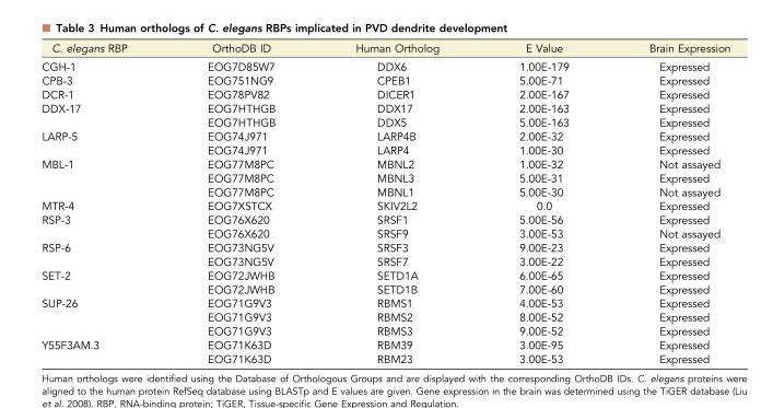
<table><thead><tr><td>C. elegans RBP</td><td>OrthoDB ID</td><td>Human Ortholog</td><td>E Value</td><td>Brain Expression</td></tr></thead><tbody><tr><td>CGH-1</td><td>EOG7D85W7</td><td>DDX6</td><td>1.00E-179</td><td>Expressed</td></tr><tr><td>CPB-3</td><td>EOG751NG9</td><td>CPEB1</td><td>5.00E-71</td><td>Expressed</td></tr><tr><td>DCR-1</td><td>EOG78PV82</td><td>DICER1</td><td>2.00E-167</td><td>Expressed</td></tr><tr><td rowspan="2">DDX-17</td><td>EOG7HTHGB</td><td>DDX17</td><td>2.00E-163</td><td>Expressed</td></tr><tr><td>EOG7HTHGB</td><td>DDX5</td><td>5.00E-163</td><td>Expressed</td></tr><tr><td rowspan="2">LARP-5</td><td>EOG74J971</td><td>LARP4B</td><td>2.00E-32</td><td>Expressed</td></tr><tr><td>EOG74J971</td><td>LARP4</td><td>1.00E-30</td><td>Expressed</td></tr><tr><td rowspan="3">MBL-1</td><td>EOG77M8PC</td><td>MBNL2</td><td>1.00E-32</td><td>Not assayed</td></tr><tr><td>EOG77M8PC</td><td>MBNL3</td><td>5.00E-31</td><td>Expressed</td></tr><tr><td>EOG77M8PC</td><td>MBNL1</td><td>5.00E-30</td><td>Not assayed</td></tr><tr><td>MTR-4</td><td>EOG7XSTCX</td><td>SKIV2L2</td><td>0.0</td><td>Expressed</td></tr><tr><td rowspan="2">RSP-3</td><td>EOG76X620</td><td>SRSF1</td><td>5.00E-56</td><td>Expressed</td></tr><tr><td>EOG76X620</td><td>SRSF9</td><td>3.00E-53</td><td>Not assayed</td></tr><tr><td rowspan="2">RSP-6</td><td>EOG73NG5V</td><td>SRSF3</td><td>9.00E-23</td><td>Expressed</td></tr><tr><td>EOG73NG5V</td><td>SRSF7</td><td>3.00E-22</td><td>Expressed</td></tr><tr><td rowspan="2">SET-2</td><td>EOG72JWHB</td><td>SETD1A</td><td>6.00E-65</td><td>Expressed</td></tr><tr><td>EOG72JWHB</td><td>SETD1B</td><td>7.00E-60</td><td>Expressed</td></tr><tr><td rowspan="3">SUP-26</td><td>EOG71G9V3</td><td>RBMS1</td><td>4.00E-53</td><td>Expressed</td></tr><tr><td>EOG71G9V3</td><td>RBMS2</td><td>8.00E-52</td><td>Expressed</td></tr><tr><td>EOG71G9V3</td><td>RBMS3</td><td>9.00E-52</td><td>Expressed</td></tr><tr><td rowspan="2">Y55F3AM.3</td><td>EOG71K63D</td><td>RBM39</td><td>3.00E-95</td><td>Expressed</td></tr><tr><td>EOG71K63D</td><td>RBM23</td><td>3.00E-53</td><td>Expressed</td></tr></tbody></table>